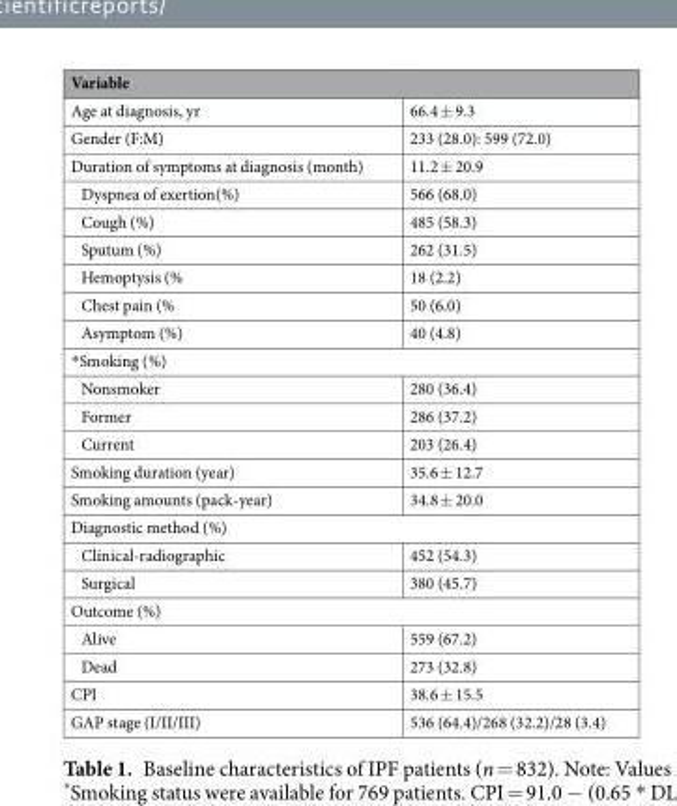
<table><thead><tr><td colspan="2">Variable</td></tr><tr><td>Age at diagnosis, yr</td><td>66.4 ± 9.3</td></tr></thead><tbody><tr><td>Gender (F:M)</td><td>233 (28.0): 599 (72.0)</td></tr><tr><td>Duration of symptoms at diagnosis (month)</td><td>11.2 ± 20.9</td></tr><tr><td>Dyspnea of exertion(%)</td><td>566 (68.0)</td></tr><tr><td>Cough (%)</td><td>485 (58.3)</td></tr><tr><td>Sputum (%)</td><td>262 (31.5)</td></tr><tr><td>Hemoptysis (%</td><td>18 (2.2)</td></tr><tr><td>Chest pain (%</td><td>50 (6.0)</td></tr><tr><td>Asymptom (%)</td><td>40 (4.8)</td></tr><tr><td colspan="2">*Smoking (%)</td></tr><tr><td>Nonsmoker</td><td>280 (36.4)</td></tr><tr><td>Former</td><td>286 (37.2)</td></tr><tr><td>Current</td><td>203 (26.4)</td></tr><tr><td>Smoking duration (year)</td><td>35.6 ± 12.7</td></tr><tr><td>Smoking amounts (pack-year)</td><td>34.8 ± 20.0</td></tr><tr><td colspan="2">Diagnostic method (%)</td></tr><tr><td>Clinical-radiographic</td><td>452 (54.3)</td></tr><tr><td>Surgical</td><td>380 (45.7)</td></tr><tr><td colspan="2">Outcome (%)</td></tr><tr><td>Alive</td><td>559 (67.2)</td></tr><tr><td>Dead</td><td>273 (32.8)</td></tr><tr><td>CPI</td><td>38.6 ± 15.5</td></tr><tr><td>GAP stage (I/II/III)</td><td>536 (64.4)/268 (32.2)/28 (3.4)</td></tr></tbody></table>